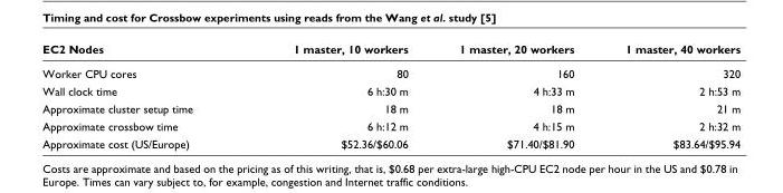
<table><thead><tr><td>EC2 Nodes</td><td>1 master, 10 workers</td><td>1 master, 20 workers</td><td>1 master, 40 workers</td></tr></thead><tbody><tr><td>Worker CPU cores</td><td>80</td><td>160</td><td>320</td></tr><tr><td>Wall clock time</td><td>6 h:30 m</td><td>4 h:33 m</td><td>2 h:53 m</td></tr><tr><td>Approximate cluster setup time</td><td>18 m</td><td>18 m</td><td>21 m</td></tr><tr><td>Approximate crossbow time</td><td>6 h:12 m</td><td>4 h:15 m</td><td>2 h:32 m</td></tr><tr><td>Approximate cost (US/Europe)</td><td>$52.36/$60.06</td><td>$71.40/$81.90</td><td>$83.64/$95.94</td></tr></tbody></table>